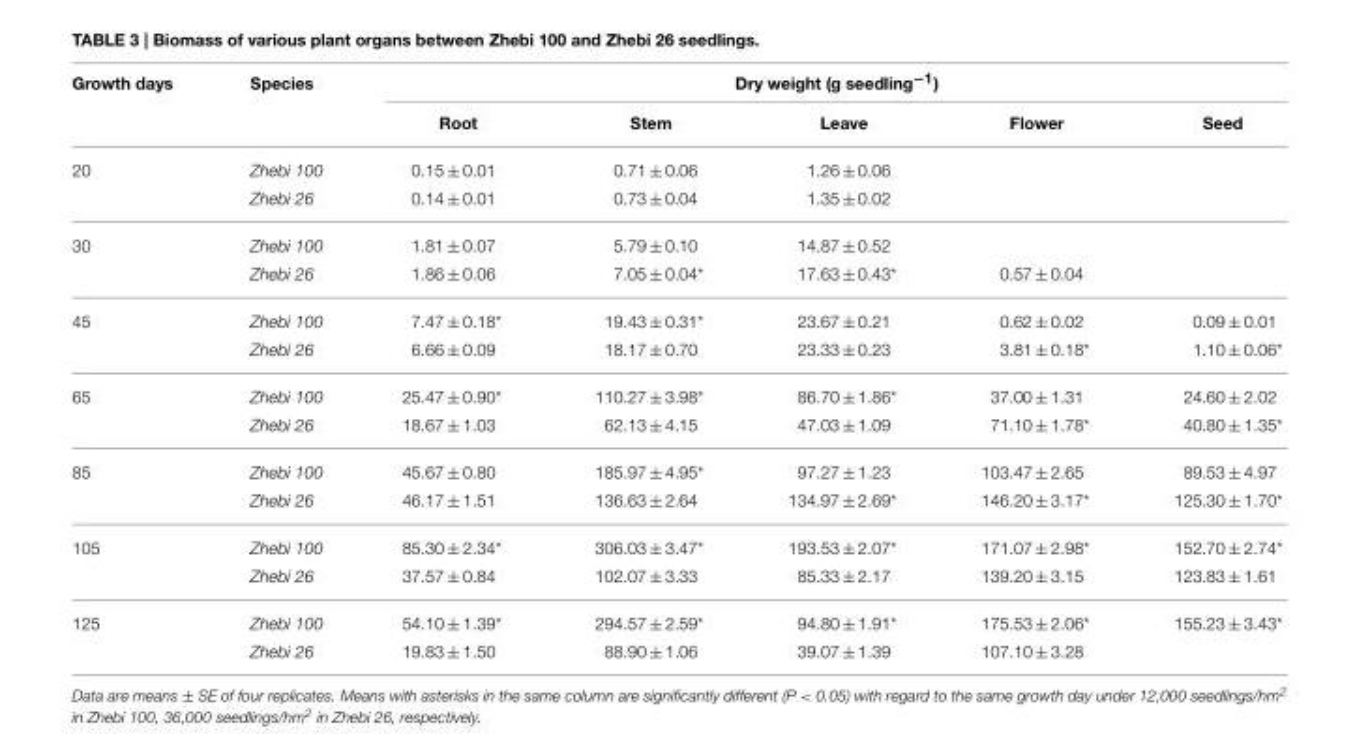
<table><thead><tr><td rowspan="2">Growth days</td><td rowspan="2">Species</td><td colspan="5">Dry weight (g seedling<sup>−1</sup>)</td></tr><tr><td>Root</td><td>Stem</td><td>Leave</td><td>Flower</td><td>Seed</td></tr></thead><tbody><tr><td rowspan="2">20</td><td>Zhebi 100</td><td>0.15 ± 0.01</td><td>0.71 ± 0.06</td><td>1.26 ± 0.06</td><td></td><td></td></tr><tr><td>Zhebi 26</td><td>0.14 ± 0.01</td><td>0.73 ± 0.04</td><td>1.35 ± 0.02</td><td></td><td></td></tr><tr><td rowspan="2">30</td><td>Zhebi 100</td><td>1.81 ± 0.07</td><td>5.79 ± 0.10</td><td>14.87 ± 0.52</td><td></td><td></td></tr><tr><td>Zhebi 26</td><td>1.86 ± 0.06</td><td>7.05 ± 0.04*</td><td>17.63 ± 0.43*</td><td>0.57 ± 0.04</td><td></td></tr><tr><td rowspan="2">45</td><td>Zhebi 100</td><td>7.47 ± 0.18*</td><td>19.43 ± 0.31*</td><td>23.67 ± 0.21</td><td>0.62 ± 0.02</td><td>0.09 ± 0.01</td></tr><tr><td>Zhebi 26</td><td>6.66 ± 0.09</td><td>18.17 ± 0.70</td><td>23.33 ± 0.23</td><td>3.81 ± 0.18*</td><td>1.10 ± 0.06*</td></tr><tr><td rowspan="2">65</td><td>Zhebi 100</td><td>25.47 ± 0.90*</td><td>110.27 ± 3.98*</td><td>86.70 ± 1.86*</td><td>37.00 ± 1.31</td><td>24.60 ± 2.02</td></tr><tr><td>Zhebi 26</td><td>18.67 ± 1.03</td><td>62.13 ± 4.15</td><td>47.03 ± 1.09</td><td>71.10 ± 1.78*</td><td>40.80 ± 1.35*</td></tr><tr><td rowspan="2">85</td><td>Zhebi 100</td><td>45.67 ± 0.80</td><td>185.97 ± 4.95*</td><td>97.27 ± 1.23</td><td>103.47 ± 2.65</td><td>89.53 ± 4.97</td></tr><tr><td>Zhebi 26</td><td>46.17 ± 1.51</td><td>136.63 ± 2.64</td><td>134.97 ± 2.69*</td><td>146.20 ± 3.17*</td><td>125.30 ± 1.70*</td></tr><tr><td rowspan="2">105</td><td>Zhebi 100</td><td>85.30 ± 2.34*</td><td>306.03 ± 3.47*</td><td>193.53 ± 2.07*</td><td>171.07 ± 2.98*</td><td>152.70 ± 2.74*</td></tr><tr><td>Zhebi 26</td><td>37.57 ± 0.84</td><td>102.07 ± 3.33</td><td>85.33 ± 2.17</td><td>139.20 ± 3.15</td><td>123.83 ± 1.61</td></tr><tr><td rowspan="2">125</td><td>Zhebi 100</td><td>54.10 ± 1.39*</td><td>294.57 ± 2.59*</td><td>94.80 ± 1.91*</td><td>175.53 ± 2.06*</td><td>155.23 ± 3.43*</td></tr><tr><td>Zhebi 26</td><td>19.83 ± 1.50</td><td>88.90 ± 1.06</td><td>39.07 ± 1.39</td><td>107.10 ± 3.28</td><td></td></tr></tbody></table>